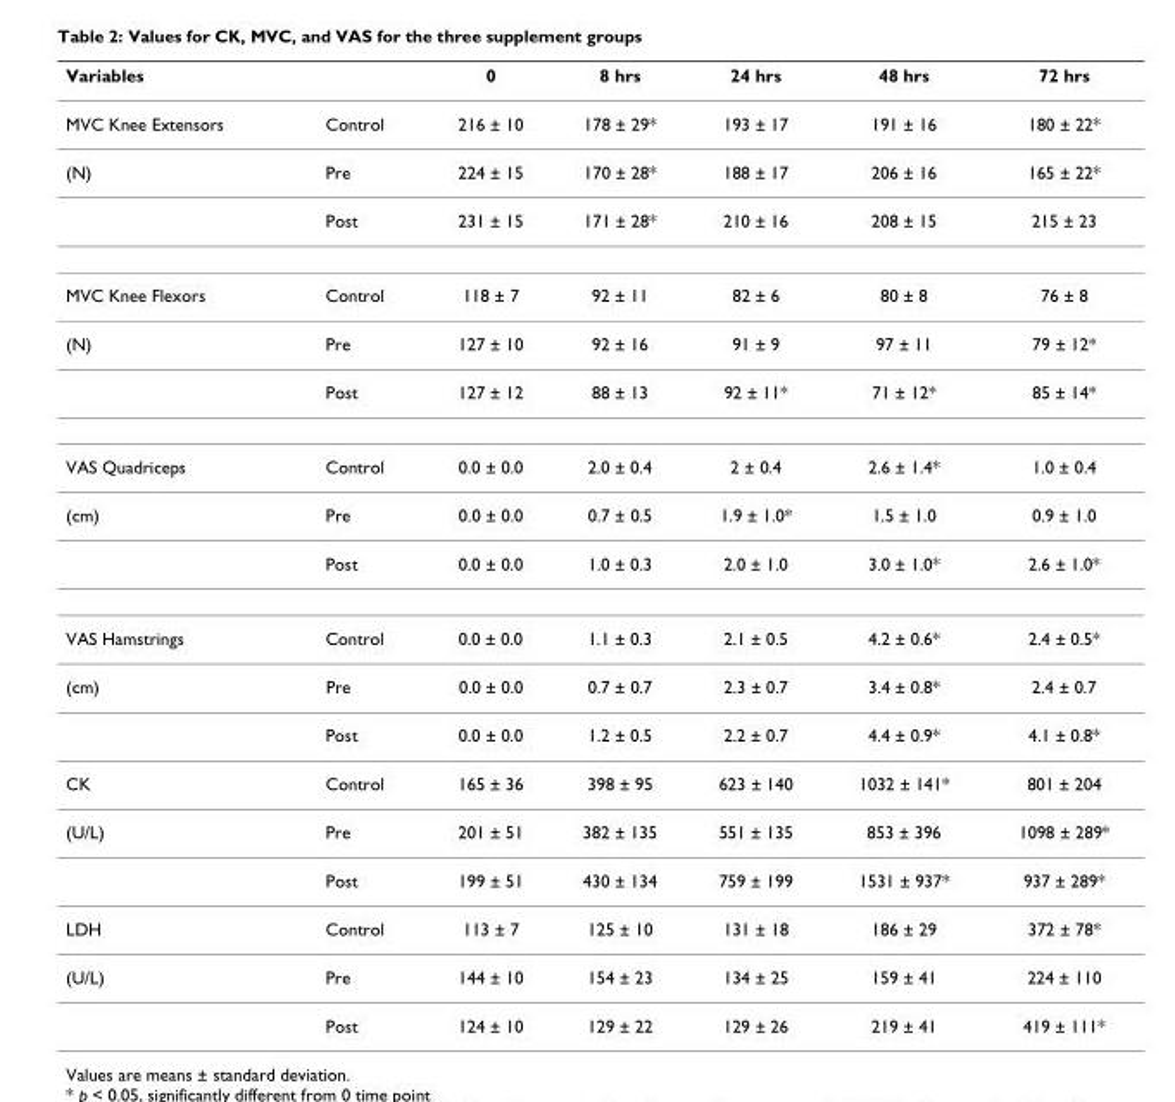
<table><thead><tr><td>Variables</td><td></td><td>0</td><td>8 hrs</td><td>24 hrs</td><td>48 hrs</td><td>72 hrs</td></tr></thead><tbody><tr><td>MVC Knee Extensors</td><td>Control</td><td>216 ± 10</td><td>178 ± 29*</td><td>193 ± 17</td><td>191 ± 16</td><td>180 ± 22*</td></tr><tr><td rowspan="2">(N)</td><td>Pre</td><td>224 ± 15</td><td>170 ± 28*</td><td>188 ± 17</td><td>206 ± 16</td><td>165 ± 22*</td></tr><tr><td>Post</td><td>231 ± 15</td><td>171 ± 28*</td><td>210 ± 16</td><td>208 ± 15</td><td>215 ± 23</td></tr><tr><td>MVC Knee Flexors</td><td>Control</td><td>118 ± 7</td><td>92 ± 11</td><td>82 ± 6</td><td>80 ± 8</td><td>76 ± 8</td></tr><tr><td rowspan="2">(N)</td><td>Pre</td><td>127 ± 10</td><td>92 ± 16</td><td>91 ± 9</td><td>97 ± 11</td><td>79 ± 12*</td></tr><tr><td>Post</td><td>127 ± 12</td><td>88 ± 13</td><td>92 ± 11*</td><td>71 ± 12*</td><td>85 ± 14*</td></tr><tr><td>VAS Quadriceps</td><td>Control</td><td>0.0 ± 0.0</td><td>2.0 ± 0.4</td><td>2 ± 0.4</td><td>2.6 ± 1.4*</td><td>1.0 ± 0.4</td></tr><tr><td rowspan="2">(cm)</td><td>Pre</td><td>0.0 ± 0.0</td><td>0.7 ± 0.5</td><td>1.9 ± 1.0*</td><td>1.5 ± 1.0</td><td>0.9 ± 1.0</td></tr><tr><td>Post</td><td>0.0 ± 0.0</td><td>1.0 ± 0.3</td><td>2.0 ± 1.0</td><td>3.0 ± 1.0*</td><td>2.6 ± 1.0*</td></tr><tr><td>VAS Hamstrings</td><td>Control</td><td>0.0 ± 0.0</td><td>1.1 ± 0.3</td><td>2.1 ± 0.5</td><td>4.2 ± 0.6*</td><td>2.4 ± 0.5*</td></tr><tr><td rowspan="2">(cm)</td><td>Pre</td><td>0.0 ± 0.0</td><td>0.7 ± 0.7</td><td>2.3 ± 0.7</td><td>3.4 ± 0.8*</td><td>2.4 ± 0.7</td></tr><tr><td>Post</td><td>0.0 ± 0.0</td><td>1.2 ± 0.5</td><td>2.2 ± 0.7</td><td>4.4 ± 0.9*</td><td>4.1 ± 0.8*</td></tr><tr><td>CK</td><td>Control</td><td>165 ± 36</td><td>398 ± 95</td><td>623 ± 140</td><td>1032 ± 141*</td><td>801 ± 204</td></tr><tr><td rowspan="2">(U/L)</td><td>Pre</td><td>201 ± 51</td><td>382 ± 135</td><td>551 ± 135</td><td>853 ± 396</td><td>1098 ± 289*</td></tr><tr><td>Post</td><td>199 ± 51</td><td>430 ± 134</td><td>759 ± 199</td><td>1531 ± 937*</td><td>937 ± 289*</td></tr><tr><td>LDH</td><td>Control</td><td>113 ± 7</td><td>125 ± 10</td><td>131 ± 18</td><td>186 ± 29</td><td>372 ± 78*</td></tr><tr><td rowspan="2">(U/L)</td><td>Pre</td><td>144 ± 10</td><td>154 ± 23</td><td>134 ± 25</td><td>159 ± 41</td><td>224 ± 110</td></tr><tr><td>Post</td><td>124 ± 10</td><td>129 ± 22</td><td>129 ± 26</td><td>219 ± 41</td><td>419 ± 111*</td></tr></tbody></table>